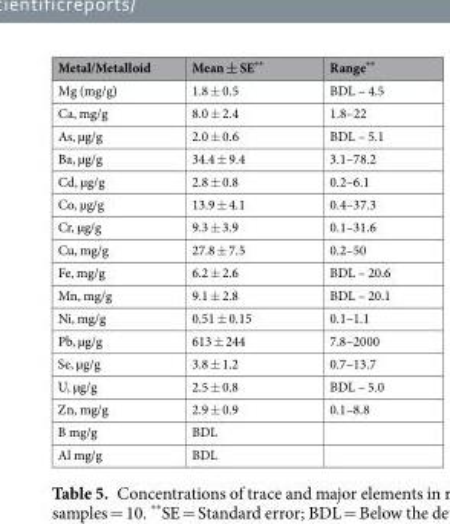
<table><thead><tr><td>Metal/Metalloid</td><td>Mean ± SE**</td><td>Range**</td></tr></thead><tbody><tr><td>Mg (mg/g)</td><td>1.8 ± 0.5</td><td>BDL – 4.5</td></tr><tr><td>Ca, mg/g</td><td>8.0 ± 2.4</td><td>1.8–22</td></tr><tr><td>As, µg/g</td><td>2.0 ± 0.6</td><td>BDL – 5.1</td></tr><tr><td>Ba, µg/g</td><td>34.4 ± 9.4</td><td>3.1–78.2</td></tr><tr><td>Cd, µg/g</td><td>2.8 ± 0.8</td><td>0.2–6.1</td></tr><tr><td>Co, µg/g</td><td>13.9 ± 4.1</td><td>0.4–37.3</td></tr><tr><td>Cr, µg/g</td><td>9.3 ± 3.9</td><td>0.1–31.6</td></tr><tr><td>Cu, mg/g</td><td>27.8 ± 7.5</td><td>0.2–50</td></tr><tr><td>Fe, mg/g</td><td>6.2 ± 2.6</td><td>BDL – 20.6</td></tr><tr><td>Mn, mg/g</td><td>9.1 ± 2.8</td><td>BDL – 20.1</td></tr><tr><td>Ni, mg/g</td><td>0.51 ± 0.15</td><td>0.1–1.1</td></tr><tr><td>Pb, µg/g</td><td>613 ± 244</td><td>7.8–2000</td></tr><tr><td>Se, µg/g</td><td>3.8 ± 1.2</td><td>0.7–13.7</td></tr><tr><td>U, µg/g</td><td>2.5 ± 0.8</td><td>BDL – 5.0</td></tr><tr><td>Zn, mg/g</td><td>2.9 ± 0.9</td><td>0.1–8.8</td></tr><tr><td>B mg/g</td><td>BDL</td><td></td></tr><tr><td>Al mg/g</td><td>BDL</td><td></td></tr></tbody></table>